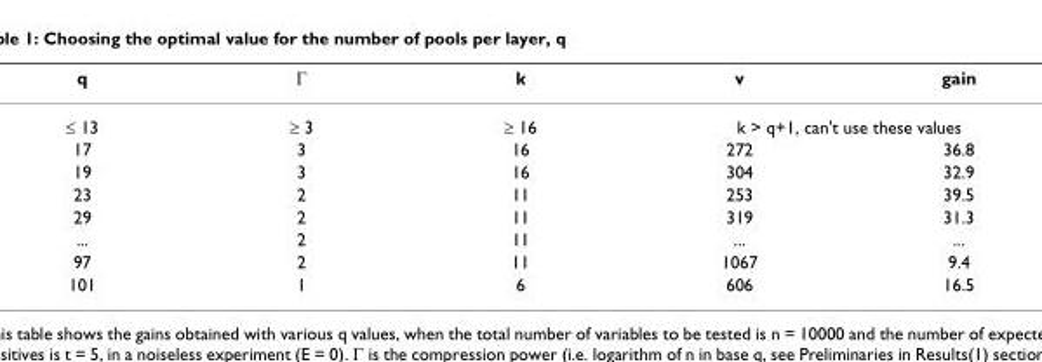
<table><thead><tr><td>q</td><td>Γ</td><td>k</td><td>v</td><td>gain</td></tr></thead><tbody><tr><td>≤ 13</td><td>≥ 3</td><td>≥ 16</td><td colspan="2">k &gt; q+1, can&#x27;t use these values</td></tr><tr><td>17</td><td>3</td><td>16</td><td>272</td><td>36.8</td></tr><tr><td>19</td><td>3</td><td>16</td><td>304</td><td>32.9</td></tr><tr><td>23</td><td>2</td><td>11</td><td>253</td><td>39.5</td></tr><tr><td>29</td><td>2</td><td>11</td><td>319</td><td>31.3</td></tr><tr><td>...</td><td>2</td><td>11</td><td>...</td><td>...</td></tr><tr><td>97</td><td>2</td><td>11</td><td>1067</td><td>9.4</td></tr><tr><td>101</td><td>1</td><td>6</td><td>606</td><td>16.5</td></tr></tbody></table>